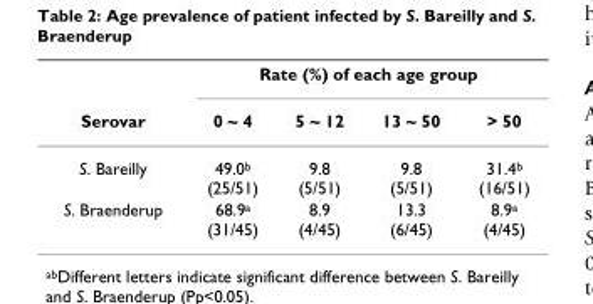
<table><thead><tr><td rowspan="2">Serovar</td><td colspan="4">Rate (%) of each age group</td></tr><tr><td>0 ~ 4</td><td>5 ~ 12</td><td>13 ~ 50</td><td>&gt; 50</td></tr></thead><tbody><tr><td>S. Bareilly</td><td>49.0<sup>b</sup> (25/51)</td><td>9.8 (5/51)</td><td>9.8 (5/51)</td><td>31.4<sup>b</sup> (16/51)</td></tr><tr><td>S. Braenderup</td><td>68.9<sup>a</sup> (31/45)</td><td>8.9 (4/45)</td><td>13.3 (6/45)</td><td>8.9<sup>a</sup> (4/45)</td></tr></tbody></table>